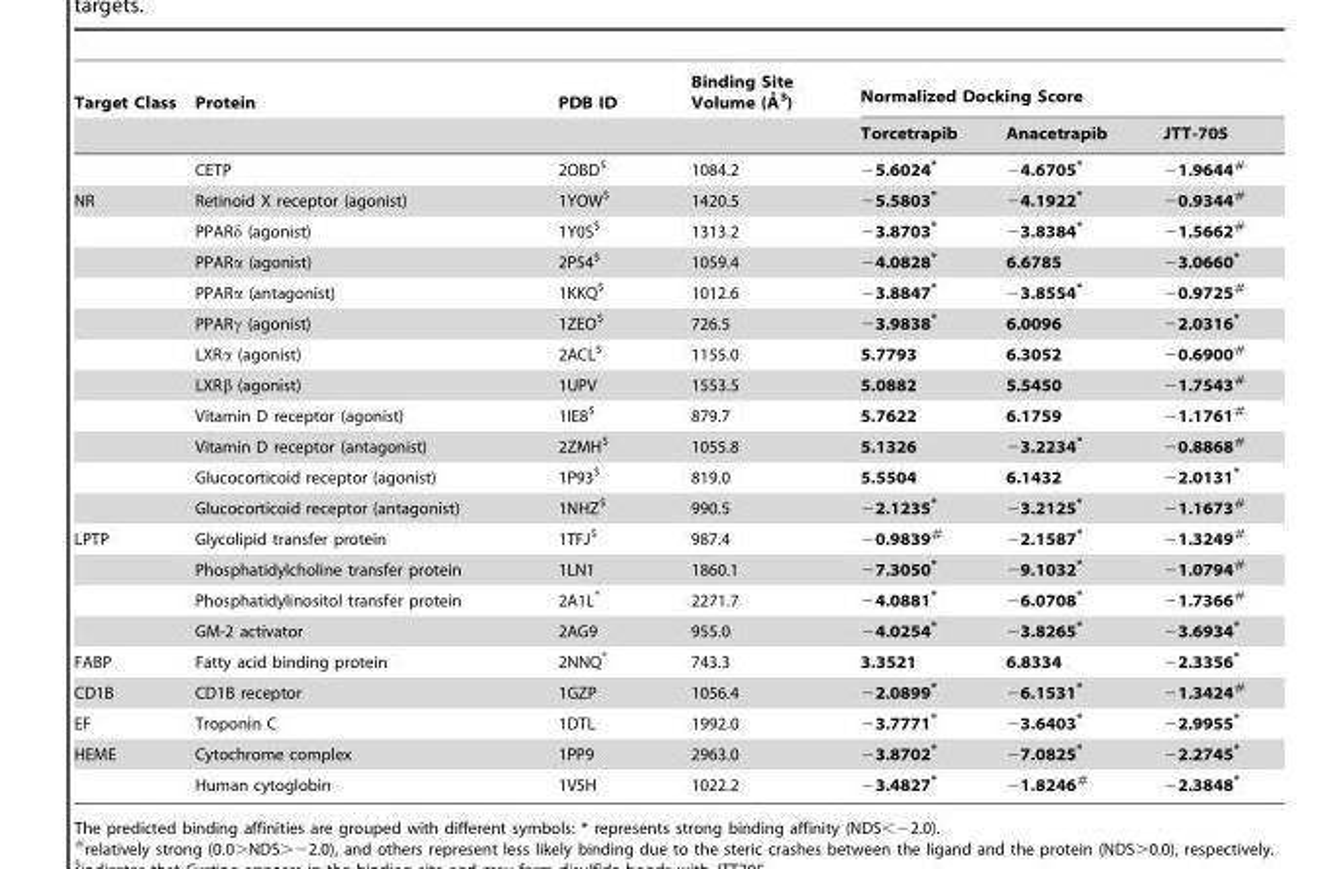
<table><thead><tr><td rowspan="2">Target Class</td><td rowspan="2">Protein</td><td rowspan="2">PDB ID</td><td rowspan="2">Binding Site Volume (A˚ 3)</td><td colspan="3">Normalized Docking Score</td></tr><tr><td>Torcetrapib</td><td>Anacetrapib</td><td>JTT-705</td></tr></thead><tbody><tr><td></td><td>CETP</td><td>2OBD$</td><td>1084.2</td><td>−5.6024*</td><td>−4.6705*</td><td>−1.9644#</td></tr><tr><td rowspan="11">NR</td><td>Retinoid X receptor (agonist)</td><td>1YOW$</td><td>1420.5</td><td>−5.5803*</td><td>−4.1922*</td><td>−0.9344#</td></tr><tr><td>PPARδ (agonist)</td><td>1Y0S$</td><td>1313.2</td><td>−3.8703*</td><td>−3.8384*</td><td>−1.5662#</td></tr><tr><td>PPARα (agonist)</td><td>2P54$</td><td>1059.4</td><td>−4.0828*</td><td>6.6785</td><td>−3.0660*</td></tr><tr><td>PPARα (antagonist)</td><td>1KKQ$</td><td>1012.6</td><td>−3.8847*</td><td>−3.8554*</td><td>−0.9725#</td></tr><tr><td>PPARγ (agonist)</td><td>1ZEO$</td><td>726.5</td><td>−3.9838*</td><td>6.0096</td><td>−2.0316*</td></tr><tr><td>LXRα (agonist)</td><td>2ACL$</td><td>1155.0</td><td>5.7793</td><td>6.3052</td><td>−0.6900#</td></tr><tr><td>LXRβ (agonist)</td><td>1UPV</td><td>1553.5</td><td>5.0882</td><td>5.5450</td><td>−1.7543#</td></tr><tr><td>Vitamin D receptor (agonist)</td><td>1IE8$</td><td>879.7</td><td>5.7622</td><td>6.1759</td><td>−1.1761#</td></tr><tr><td>Vitamin D receptor (antagonist)</td><td>2ZMH$</td><td>1055.8</td><td>5.1326</td><td>−3.2234*</td><td>−0.8868#</td></tr><tr><td>Glucocorticoid receptor (agonist)</td><td>1P93$</td><td>819.0</td><td>5.5504</td><td>6.1432</td><td>−2.0131*</td></tr><tr><td>Glucocorticoid receptor (antagonist)</td><td>1NHZ$</td><td>990.5</td><td>−2.1235*</td><td>−3.2125*</td><td>−1.1673#</td></tr><tr><td rowspan="4">LPTP</td><td>Glycolipid transfer protein</td><td>1TFJ$</td><td>987.4</td><td>−0.9839#</td><td>−2.1587*</td><td>−1.3249#</td></tr><tr><td>Phosphatidylcholine transfer protein</td><td>1LN1</td><td>1860.1</td><td>−7.3050*</td><td>−9.1032*</td><td>−1.0794#</td></tr><tr><td>Phosphatidylinositol transfer protein</td><td>2A1L*</td><td>2271.7</td><td>−4.0881*</td><td>−6.0708*</td><td>−1.7366#</td></tr><tr><td>GM-2 activator</td><td>2AG9</td><td>955.0</td><td>−4.0254*</td><td>−3.8265*</td><td>−3.6934*</td></tr><tr><td>FABP</td><td>Fatty acid binding protein</td><td>2NNQ*</td><td>743.3</td><td>3.3521</td><td>6.8334</td><td>−2.3356*</td></tr><tr><td>CD1B</td><td>CD1B receptor</td><td>1GZP</td><td>1056.4</td><td>−2.0899*</td><td>−6.1531*</td><td>−1.3424#</td></tr><tr><td>EF</td><td>Troponin C</td><td>1DTL</td><td>1992.0</td><td>−3.7771*</td><td>−3.6403*</td><td>−2.9955*</td></tr><tr><td rowspan="2">HEME</td><td>Cytochrome complex</td><td>1PP9</td><td>2963.0</td><td>−3.8702*</td><td>−7.0825*</td><td>−2.2745*</td></tr><tr><td>Human cytoglobin</td><td>1V5H</td><td>1022.2</td><td>−3.4827*</td><td>−1.8246#</td><td>−2.3848*</td></tr></tbody></table>